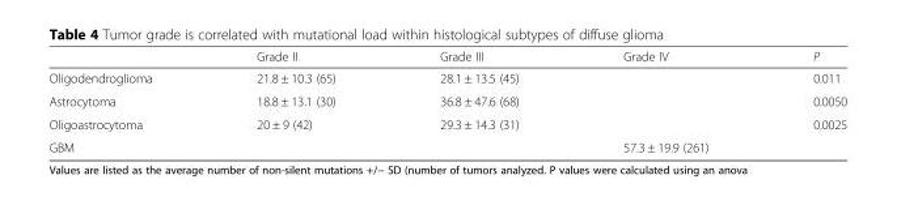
<table><thead><tr><td></td><td>Grade II</td><td>Grade III</td><td>Grade IV</td><td>P</td></tr></thead><tbody><tr><td>Oligodendroglioma</td><td>21.8 ± 10.3 (65)</td><td>28.1 ± 13.5 (45)</td><td></td><td>0.011</td></tr><tr><td>Astrocytoma</td><td>18.8 ± 13.1 (30)</td><td>36.8 ± 47.6 (68)</td><td></td><td>0.0050</td></tr><tr><td>Oligoastrocytoma</td><td>20 ± 9 (42)</td><td>29.3 ± 14.3 (31)</td><td></td><td>0.0025</td></tr><tr><td>GBM</td><td></td><td></td><td>57.3 ± 19.9 (261)</td><td></td></tr></tbody></table>